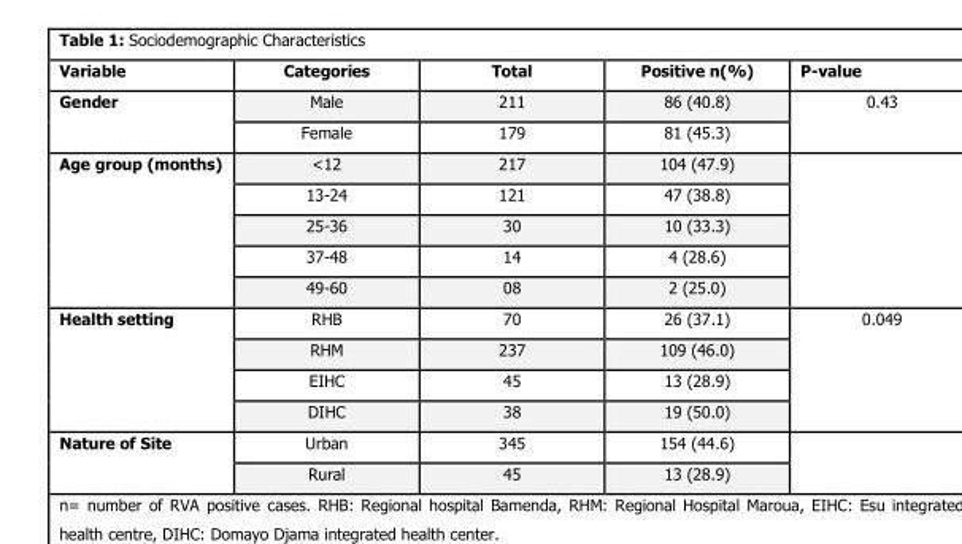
<table><thead><tr><td>Variable</td><td>Categories</td><td>Total</td><td>Positive n(%)</td><td>P-value</td></tr></thead><tbody><tr><td rowspan="2">Gender</td><td>Male</td><td>211</td><td>86 (40.8)</td><td rowspan="2">0.43</td></tr><tr><td>Female</td><td>179</td><td>81 (45.3)</td></tr><tr><td rowspan="5">Age group (months)</td><td>&lt;12</td><td>217</td><td>104 (47.9)</td><td rowspan="5"></td></tr><tr><td>13-24</td><td>121</td><td>47 (38.8)</td></tr><tr><td>25-36</td><td>30</td><td>10 (33.3)</td></tr><tr><td>37-48</td><td>14</td><td>4 (28.6)</td></tr><tr><td>49-60</td><td>08</td><td>2 (25.0)</td></tr><tr><td rowspan="4">Health setting</td><td>RHB</td><td>70</td><td>26 (37.1)</td><td rowspan="4">0.049</td></tr><tr><td>RHM</td><td>237</td><td>109 (46.0)</td></tr><tr><td>EIHC</td><td>45</td><td>13 (28.9)</td></tr><tr><td>DIHC</td><td>38</td><td>19 (50.0)</td></tr><tr><td rowspan="2">Nature of Site</td><td>Urban</td><td>345</td><td>154 (44.6)</td><td rowspan="2"></td></tr><tr><td>Rural</td><td>45</td><td>13 (28.9)</td></tr></tbody></table>